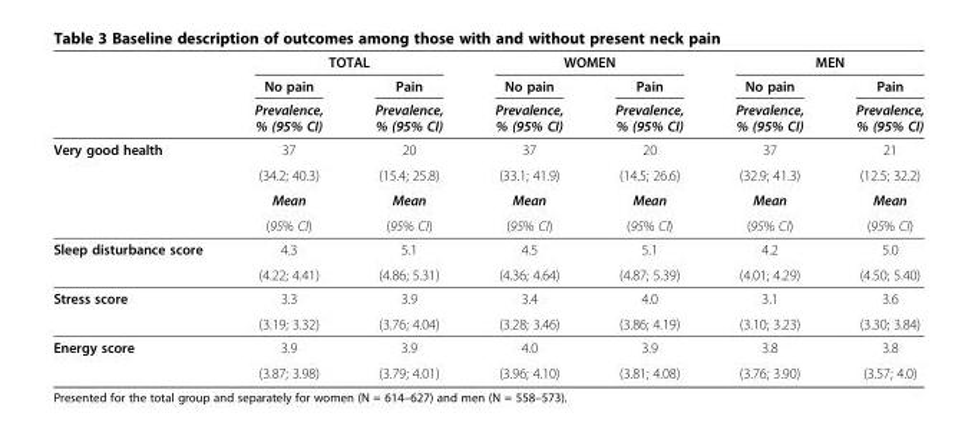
<table><thead><tr><td rowspan="3"></td><td colspan="2">TOTAL</td><td colspan="2">WOMEN</td><td colspan="2">MEN</td></tr><tr><td rowspan="2">No pain Prevalence, % (95% CI)</td><td rowspan="2">Pain Prevalence, % (95% CI)</td><td rowspan="2">No pain Prevalence, % (95% CI)</td><td rowspan="2">Pain Prevalence, % (95% CI)</td><td rowspan="2">No pain Prevalence, % (95% CI)</td><td rowspan="2">Pain Prevalence, % (95% CI)</td></tr><tr></tr></thead><tbody><tr><td rowspan="4">Very good health</td><td>37</td><td>20</td><td>37</td><td>20</td><td>37</td><td>21</td></tr><tr><td>(34.2; 40.3)</td><td>(15.4; 25.8)</td><td>(33.1; 41.9)</td><td>(14.5; 26.6)</td><td>(32.9; 41.3)</td><td>(12.5; 32.2)</td></tr><tr><td>Mean</td><td>Mean</td><td>Mean</td><td>Mean</td><td>Mean</td><td>Mean</td></tr><tr><td>(95% CI)</td><td>(95% CI)</td><td>(95% CI)</td><td>(95% CI)</td><td>(95% CI)</td><td>(95% CI)</td></tr><tr><td rowspan="2">Sleep disturbance score</td><td>4.3</td><td>5.1</td><td>4.5</td><td>5.1</td><td>4.2</td><td>5.0</td></tr><tr><td>(4.22; 4.41)</td><td>(4.86; 5.31)</td><td>(4.36; 4.64)</td><td>(4.87; 5.39)</td><td>(4.01; 4.29)</td><td>(4.50; 5.40)</td></tr><tr><td rowspan="2">Stress score</td><td>3.3</td><td>3.9</td><td>3.4</td><td>4.0</td><td>3.1</td><td>3.6</td></tr><tr><td>(3.19; 3.32)</td><td>(3.76; 4.04)</td><td>(3.28; 3.46)</td><td>(3.86; 4.19)</td><td>(3.10; 3.23)</td><td>(3.30; 3.84)</td></tr><tr><td rowspan="2">Energy score</td><td>3.9</td><td>3.9</td><td>4.0</td><td>3.9</td><td>3.8</td><td>3.8</td></tr><tr><td>(3.87; 3.98)</td><td>(3.79; 4.01)</td><td>(3.96; 4.10)</td><td>(3.81; 4.08)</td><td>(3.76; 3.90)</td><td>(3.57; 4.0)</td></tr></tbody></table>